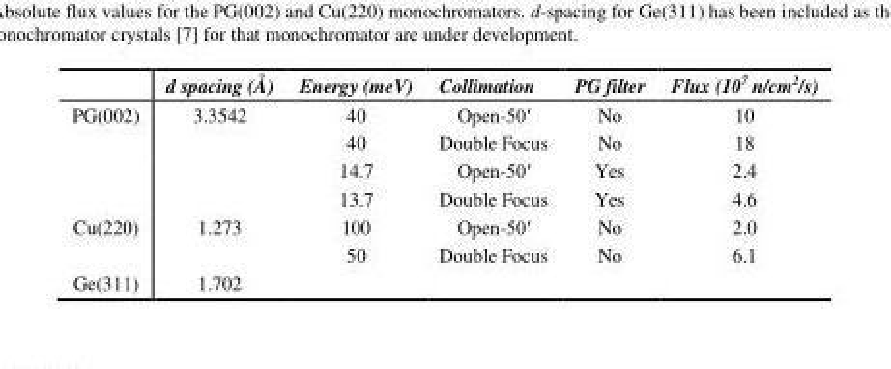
<table><thead><tr><td></td><td>d spacing (Å)</td><td>Energy (meV)</td><td>Collimation</td><td>PG filter</td><td>Flux (10<sup>7</sup> n/cm<sup>2</sup>/s)</td></tr></thead><tbody><tr><td rowspan="4">PG(002)</td><td rowspan="4">3.3542</td><td>40</td><td>Open-50′</td><td>No</td><td>10</td></tr><tr><td>40</td><td>Double Focus</td><td>No</td><td>18</td></tr><tr><td>14.7</td><td>Open-50′</td><td>Yes</td><td>2.4</td></tr><tr><td>13.7</td><td>Double Focus</td><td>Yes</td><td>4.6</td></tr><tr><td rowspan="2">Cu(220)</td><td rowspan="2">1.273</td><td>100</td><td>Open-50′</td><td>No</td><td>2.0</td></tr><tr><td>50</td><td>Double Focus</td><td>No</td><td>6.1</td></tr><tr><td>Ge(311)</td><td>1.702</td><td></td><td></td><td></td><td></td></tr></tbody></table>